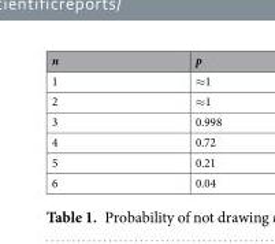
<table><thead><tr><td>n</td><td>p</td></tr></thead><tbody><tr><td>1</td><td>≈1</td></tr><tr><td>2</td><td>≈1</td></tr><tr><td>3</td><td>0.998</td></tr><tr><td>4</td><td>0.72</td></tr><tr><td>5</td><td>0.21</td></tr><tr><td>6</td><td>0.04</td></tr></tbody></table>